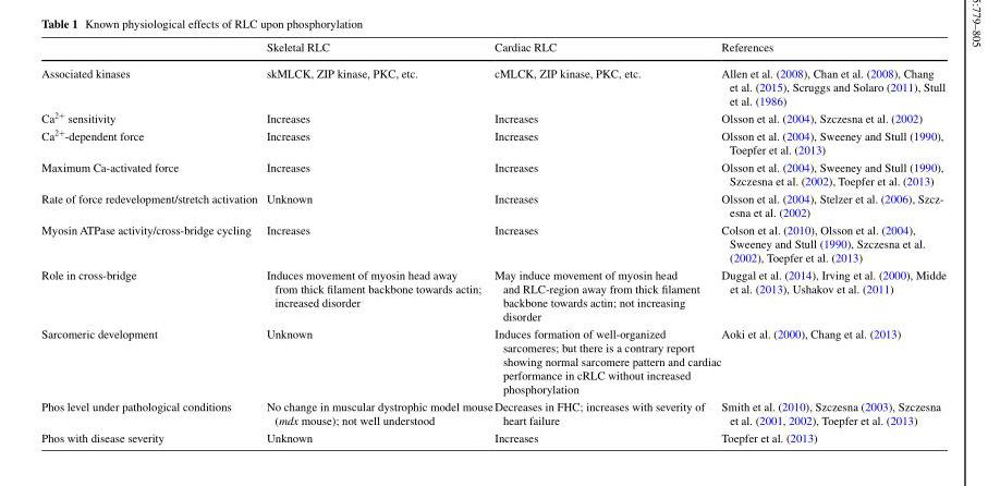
<table><thead><tr><td></td><td>Skeletal RLC</td><td>Cardiac RLC</td><td>References</td></tr></thead><tbody><tr><td>Associated kinases</td><td>skMLCK, ZIP kinase, PKC, etc.</td><td>cMLCK, ZIP kinase, PKC, etc.</td><td>Allen et al. (2008), Chan et al. (2008), Chang et al. (2015), Scruggs and Solaro (2011), Stull et al. (1986)</td></tr><tr><td>Ca<sup>2+</sup> sensitivity</td><td>Increases</td><td>Increases</td><td>Olsson et al. (2004), Szczesna et al. (2002)</td></tr><tr><td>Ca<sup>2+</sup>-dependent force</td><td>Increases</td><td>Increases</td><td>Olsson et al. (2004), Sweeney and Stull (1990), Toepfer et al. (2013)</td></tr><tr><td>Maximum Ca-activated force</td><td>Increases</td><td>Increases</td><td>Olsson et al. (2004), Sweeney and Stull (1990), Szczesna et al. (2002), Toepfer et al. (2013)</td></tr><tr><td>Rate of force redevelopment/stretch activation</td><td>Unknown</td><td>Increases</td><td>Olsson et al. (2004), Stelzer et al. (2006), Szcz- esna et al. (2002)</td></tr><tr><td>Myosin ATPase activity/cross-bridge cycling</td><td>Increases</td><td>Increases</td><td>Colson et al. (2010), Olsson et al. (2004), Sweeney and Stull (1990), Szczesna et al. (2002), Toepfer et al. (2013)</td></tr><tr><td>Role in cross-bridge</td><td>Induces movement of myosin head away from thick filament backbone towards actin; increased disorder</td><td>May induce movement of myosin head and RLC-region away from thick filament backbone towards actin; not increasing disorder</td><td>Duggal et al. (2014), Irving et al. (2000), Midde et al. (2013), Ushakov et al. (2011)</td></tr><tr><td>Sarcomeric development</td><td>Unknown</td><td>Induces formation of well-organized sarcomeres; but there is a contrary report showing normal sarcomere pattern and cardiac performance in cRLC without increased phosphorylation</td><td>Aoki et al. (2000), Chang et al. (2013)</td></tr><tr><td>Phos level under pathological conditions</td><td>No change in muscular dystrophic model mouse (mdx mouse); not well understood</td><td>Decreases in FHC; increases with severity of heart failure</td><td>Smith et al. (2010), Szczesna (2003), Szczesna et al. (2001, 2002), Toepfer et al. (2013)</td></tr><tr><td>Phos with disease severity</td><td>Unknown</td><td>Increases</td><td>Toepfer et al. (2013)</td></tr></tbody></table>